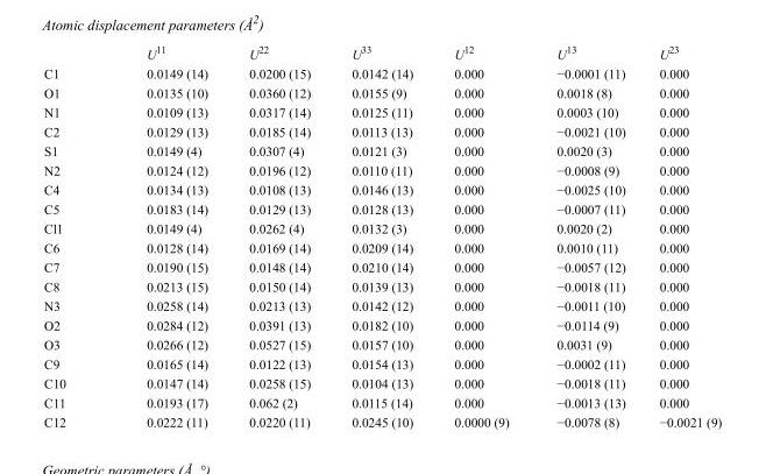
<table><thead><tr><td></td><td>U<sup>11</sup></td><td>U<sup>22</sup></td><td>U<sup>33</sup></td><td>U<sup>12</sup></td><td>U<sup>13</sup></td><td>U<sup>23</sup></td></tr></thead><tbody><tr><td>C1</td><td>0.0149 (14)</td><td>0.0200 (15)</td><td>0.0142 (14)</td><td>0.000</td><td>−0.0001 (11)</td><td>0.000</td></tr><tr><td>O1</td><td>0.0135 (10)</td><td>0.0360 (12)</td><td>0.0155 (9)</td><td>0.000</td><td>0.0018 (8)</td><td>0.000</td></tr><tr><td>N1</td><td>0.0109 (13)</td><td>0.0317 (14)</td><td>0.0125 (11)</td><td>0.000</td><td>0.0003 (10)</td><td>0.000</td></tr><tr><td>C2</td><td>0.0129 (13)</td><td>0.0185 (14)</td><td>0.0113 (13)</td><td>0.000</td><td>−0.0021 (10)</td><td>0.000</td></tr><tr><td>S1</td><td>0.0149 (4)</td><td>0.0307 (4)</td><td>0.0121 (3)</td><td>0.000</td><td>0.0020 (3)</td><td>0.000</td></tr><tr><td>N2</td><td>0.0124 (12)</td><td>0.0196 (12)</td><td>0.0110 (11)</td><td>0.000</td><td>−0.0008 (9)</td><td>0.000</td></tr><tr><td>C4</td><td>0.0134 (13)</td><td>0.0108 (13)</td><td>0.0146 (13)</td><td>0.000</td><td>−0.0025 (10)</td><td>0.000</td></tr><tr><td>C5</td><td>0.0183 (14)</td><td>0.0129 (13)</td><td>0.0128 (13)</td><td>0.000</td><td>−0.0007 (11)</td><td>0.000</td></tr><tr><td>Cl1</td><td>0.0149 (4)</td><td>0.0262 (4)</td><td>0.0132 (3)</td><td>0.000</td><td>0.0020 (2)</td><td>0.000</td></tr><tr><td>C6</td><td>0.0128 (14)</td><td>0.0169 (14)</td><td>0.0209 (14)</td><td>0.000</td><td>0.0010 (11)</td><td>0.000</td></tr><tr><td>C7</td><td>0.0190 (15)</td><td>0.0148 (14)</td><td>0.0210 (14)</td><td>0.000</td><td>−0.0057 (12)</td><td>0.000</td></tr><tr><td>C8</td><td>0.0213 (15)</td><td>0.0150 (14)</td><td>0.0139 (13)</td><td>0.000</td><td>−0.0018 (11)</td><td>0.000</td></tr><tr><td>N3</td><td>0.0258 (14)</td><td>0.0213 (13)</td><td>0.0142 (12)</td><td>0.000</td><td>−0.0011 (10)</td><td>0.000</td></tr><tr><td>O2</td><td>0.0284 (12)</td><td>0.0391 (13)</td><td>0.0182 (10)</td><td>0.000</td><td>−0.0114 (9)</td><td>0.000</td></tr><tr><td>O3</td><td>0.0266 (12)</td><td>0.0527 (15)</td><td>0.0157 (10)</td><td>0.000</td><td>0.0031 (9)</td><td>0.000</td></tr><tr><td>C9</td><td>0.0165 (14)</td><td>0.0122 (13)</td><td>0.0154 (13)</td><td>0.000</td><td>−0.0002 (11)</td><td>0.000</td></tr><tr><td>C10</td><td>0.0147 (14)</td><td>0.0258 (15)</td><td>0.0104 (13)</td><td>0.000</td><td>−0.0018 (11)</td><td>0.000</td></tr><tr><td>C11</td><td>0.0193 (17)</td><td>0.062 (2)</td><td>0.0115 (14)</td><td>0.000</td><td>−0.0013 (13)</td><td>0.000</td></tr><tr><td>C12</td><td>0.0222 (11)</td><td>0.0220 (11)</td><td>0.0245 (10)</td><td>0.0000 (9)</td><td>−0.0078 (8)</td><td>−0.0021 (9)</td></tr></tbody></table>